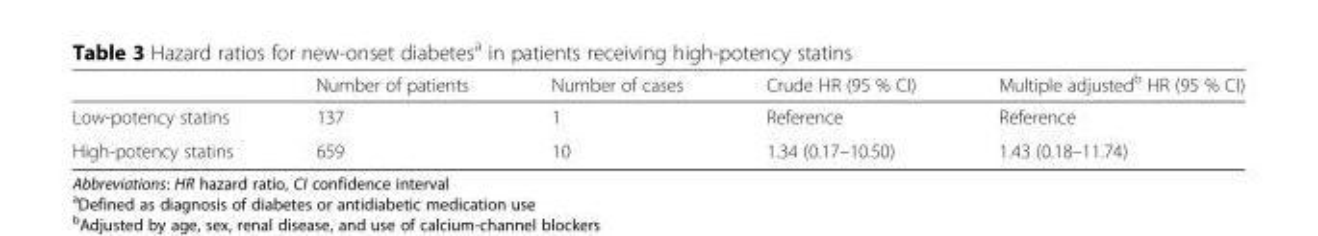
<table><thead><tr><td></td><td>Number of patients</td><td>Number of cases</td><td>Crude HR (95 % CI)</td><td>Multiple adjusted<sup>b</sup> HR (95 % CI)</td></tr></thead><tbody><tr><td>Low-potency statins</td><td>137</td><td>1</td><td>Reference</td><td>Reference</td></tr><tr><td>High-potency statins</td><td>659</td><td>10</td><td>1.34 (0.17–10.50)</td><td>1.43 (0.18–11.74)</td></tr></tbody></table>